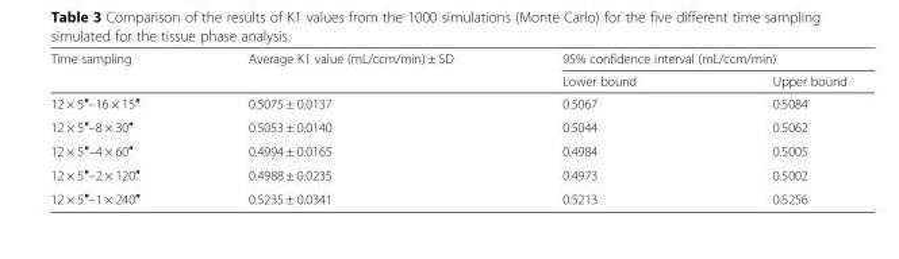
<table><thead><tr><td rowspan="2">Time sampling</td><td rowspan="2">Average K1 value (mL/ccm/min) ± SD</td><td colspan="2">95% confidence interval (mL/ccm/min)</td></tr><tr><td>Lower bound</td><td>Upper bound</td></tr></thead><tbody><tr><td>12 × 5″–16 × 15″</td><td>0.5075 ± 0.0137</td><td>0.5067</td><td>0.5084</td></tr><tr><td>12 × 5″–8 × 30″</td><td>0.5053 ± 0.0140</td><td>0.5044</td><td>0.5062</td></tr><tr><td>12 × 5″–4 × 60″</td><td>0.4994 ± 0.0165</td><td>0.4984</td><td>0.5005</td></tr><tr><td>12 × 5″–2 × 120″</td><td>0.4988 ± 0.0235</td><td>0.4973</td><td>0.5002</td></tr><tr><td>12 × 5″–1 × 240″</td><td>0.5235 ± 0.0341</td><td>0.5213</td><td>0.5256</td></tr></tbody></table>